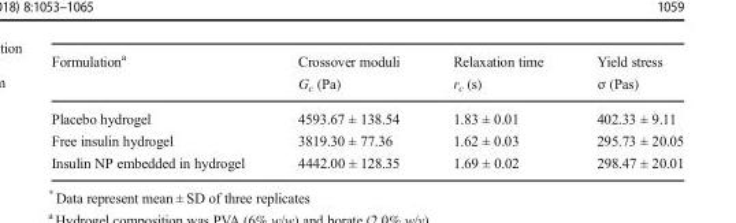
<table><thead><tr><td>Formulation<sup>a</sup></td><td>Crossover moduli G<sub>c</sub> (Pa)</td><td>Relaxation time r<sub>c</sub> (s)</td><td>Yield stress σ (Pas)</td></tr></thead><tbody><tr><td>Placebo hydrogel</td><td>4593.67 ± 138.54</td><td>1.83 ± 0.01</td><td>402.33 ± 9.11</td></tr><tr><td>Free insulin hydrogel</td><td>3819.30 ± 77.36</td><td>1.62 ± 0.03</td><td>295.73 ± 20.05</td></tr><tr><td>Insulin NP embedded in hydrogel</td><td>4442.00 ± 128.35</td><td>1.69 ± 0.02</td><td>298.47 ± 20.01</td></tr></tbody></table>